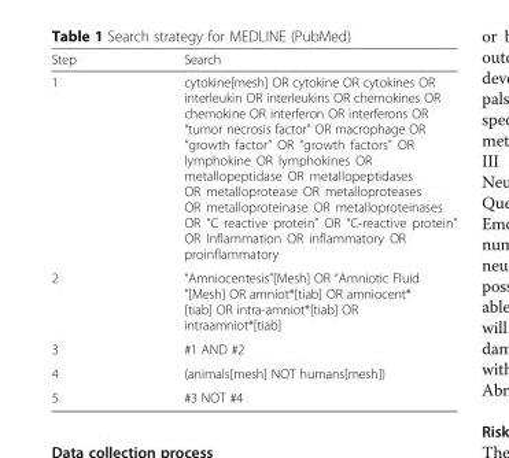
<table><thead><tr><td>Step</td><td>Search</td></tr></thead><tbody><tr><td>1</td><td>cytokine[mesh] OR cytokine OR cytokines OR interleukin OR interleukins OR chemokines OR chemokine OR interferon OR interferons OR “tumor necrosis factor” OR macrophage OR “growth factor” OR “growth factors” OR lymphokine OR lymphokines OR metallopeptidase OR metallopeptidases OR metalloprotease OR metalloproteases OR metalloproteinase OR metalloproteinases OR “C reactive protein” OR “C-reactive protein” OR Inflammation OR inflammatory OR proinflammatory</td></tr><tr><td>2</td><td>“Amniocentesis”[Mesh] OR “Amniotic Fluid ”[Mesh] OR amniot*[tiab] OR amniocent* [tiab] OR intra-amniot*[tiab] OR intraamniot*[tiab]</td></tr><tr><td>3</td><td>#1 AND #2</td></tr><tr><td>4</td><td>(animals[mesh] NOT humans[mesh])</td></tr><tr><td>5</td><td>#3 NOT #4</td></tr></tbody></table>